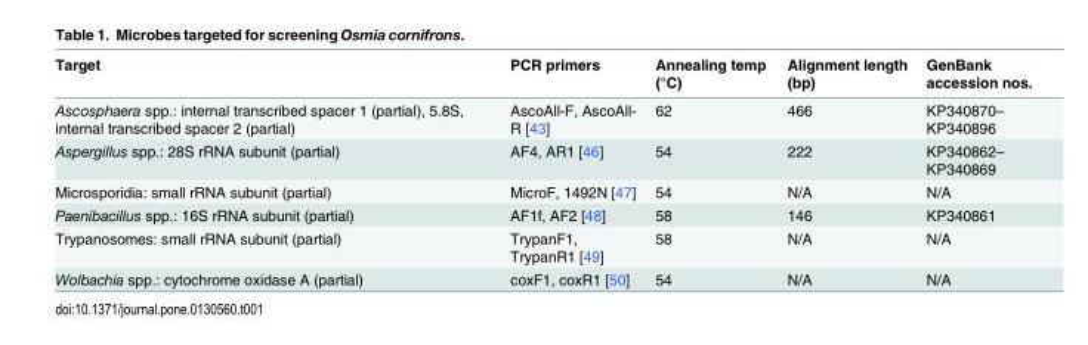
<table><thead><tr><td>Target</td><td>PCR primers</td><td>Annealing temp (°C)</td><td>Alignment length (bp)</td><td>GenBank accession nos.</td></tr></thead><tbody><tr><td>Ascosphaera spp.: internal transcribed spacer 1 (partial), 5.8S, internal transcribed spacer 2 (partial)</td><td>AscoAll-F, AscoAll- R [43]</td><td>62</td><td>466</td><td>KP340870– KP340896</td></tr><tr><td>Aspergillus spp.: 28S rRNA subunit (partial)</td><td>AF4, AR1 [46]</td><td>54</td><td>222</td><td>KP340862– KP340869</td></tr><tr><td>Microsporidia: small rRNA subunit (partial)</td><td>MicroF, 1492N [47]</td><td>54</td><td>N/A</td><td>N/A</td></tr><tr><td>Paenibacillus spp.: 16S rRNA subunit (partial)</td><td>AF1f, AF2 [48]</td><td>58</td><td>146</td><td>KP340861</td></tr><tr><td>Trypanosomes: small rRNA subunit (partial)</td><td>TrypanF1, TrypanR1 [49]</td><td>58</td><td>N/A</td><td>N/A</td></tr><tr><td>Wolbachia spp.: cytochrome oxidase A (partial)</td><td>coxF1, coxR1 [50]</td><td>54</td><td>N/A</td><td>N/A</td></tr></tbody></table>